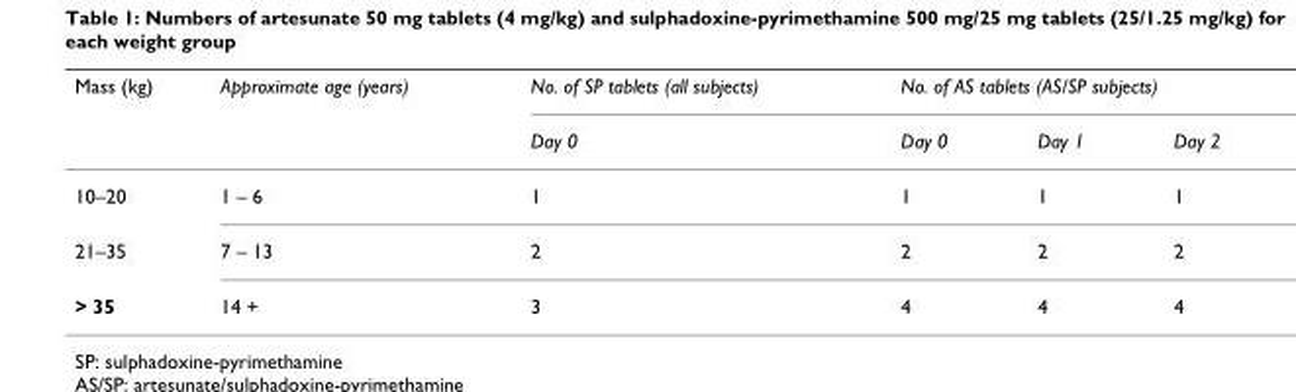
<table><thead><tr><td rowspan="2">Mass (kg)</td><td rowspan="2">Approximate age (years)</td><td rowspan="2">No. of SP tablets (all subjects) Day 0</td><td colspan="3">No. of AS tablets (AS/SP subjects)</td></tr><tr><td>Day 0</td><td>Day 1</td><td>Day 2</td></tr></thead><tbody><tr><td>10–20</td><td>1 – 6</td><td>1</td><td>1</td><td>1</td><td>1</td></tr><tr><td>21–35</td><td>7 – 13</td><td>2</td><td>2</td><td>2</td><td>2</td></tr><tr><td>&gt; 35</td><td>14 +</td><td>3</td><td>4</td><td>4</td><td>4</td></tr></tbody></table>